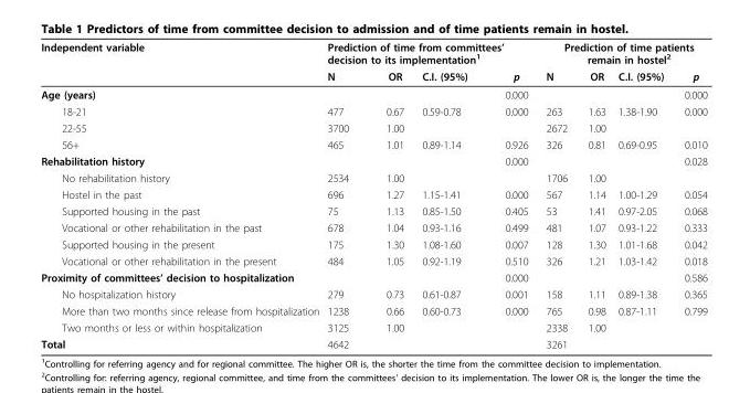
<table><thead><tr><td rowspan="2">Independent variable</td><td colspan="4">Prediction of time from committees’ decision to its implementation<sup>1</sup></td><td colspan="4">Prediction of time patients remain in hostel<sup>2</sup></td></tr><tr><td>N</td><td>OR</td><td>C.I. (95%)</td><td>p</td><td>N</td><td>OR</td><td>C.I. (95%)</td><td>p</td></tr></thead><tbody><tr><td>Age (years)</td><td></td><td></td><td></td><td>0.000</td><td></td><td></td><td></td><td>0.000</td></tr><tr><td>18-21</td><td>477</td><td>0.67</td><td>0.59-0.78</td><td>0.000</td><td>263</td><td>1.63</td><td>1.38-1.90</td><td>0.000</td></tr><tr><td>22-55</td><td>3700</td><td>1.00</td><td></td><td></td><td>2672</td><td>1.00</td><td></td><td></td></tr><tr><td>56+</td><td>465</td><td>1.01</td><td>0.89-1.14</td><td>0.926</td><td>326</td><td>0.81</td><td>0.69-0.95</td><td>0.010</td></tr><tr><td>Rehabilitation history</td><td></td><td></td><td></td><td>0.000</td><td></td><td></td><td></td><td>0.028</td></tr><tr><td>No rehabilitation history</td><td>2534</td><td>1.00</td><td></td><td></td><td>1706</td><td>1.00</td><td></td><td></td></tr><tr><td>Hostel in the past</td><td>696</td><td>1.27</td><td>1.15-1.41</td><td>0.000</td><td>567</td><td>1.14</td><td>1.00-1.29</td><td>0.054</td></tr><tr><td>Supported housing in the past</td><td>75</td><td>1.13</td><td>0.85-1.50</td><td>0.405</td><td>53</td><td>1.41</td><td>0.97-2.05</td><td>0.068</td></tr><tr><td>Vocational or other rehabilitation in the past</td><td>678</td><td>1.04</td><td>0.93-1.16</td><td>0.499</td><td>481</td><td>1.07</td><td>0.93-1.22</td><td>0.333</td></tr><tr><td>Supported housing in the present</td><td>175</td><td>1.30</td><td>1.08-1.60</td><td>0.007</td><td>128</td><td>1.30</td><td>1.01-1.68</td><td>0.042</td></tr><tr><td>Vocational or other rehabilitation in the present</td><td>484</td><td>1.05</td><td>0.92-1.19</td><td>0.510</td><td>326</td><td>1.21</td><td>1.03-1.42</td><td>0.018</td></tr><tr><td colspan="4">Proximity of committees’ decision to hospitalization</td><td>0.000</td><td></td><td></td><td></td><td>0.586</td></tr><tr><td>No hospitalization history</td><td>279</td><td>0.73</td><td>0.61-0.87</td><td>0.001</td><td>158</td><td>1.11</td><td>0.89-1.38</td><td>0.365</td></tr><tr><td>More than two months since release from hospitalization</td><td>1238</td><td>0.66</td><td>0.60-0.73</td><td>0.000</td><td>765</td><td>0.98</td><td>0.87-1.11</td><td>0.799</td></tr><tr><td>Two months or less or within hospitalization</td><td>3125</td><td>1.00</td><td></td><td></td><td>2338</td><td>1.00</td><td></td><td></td></tr><tr><td>Total</td><td>4642</td><td></td><td></td><td></td><td>3261</td><td></td><td></td><td></td></tr></tbody></table>